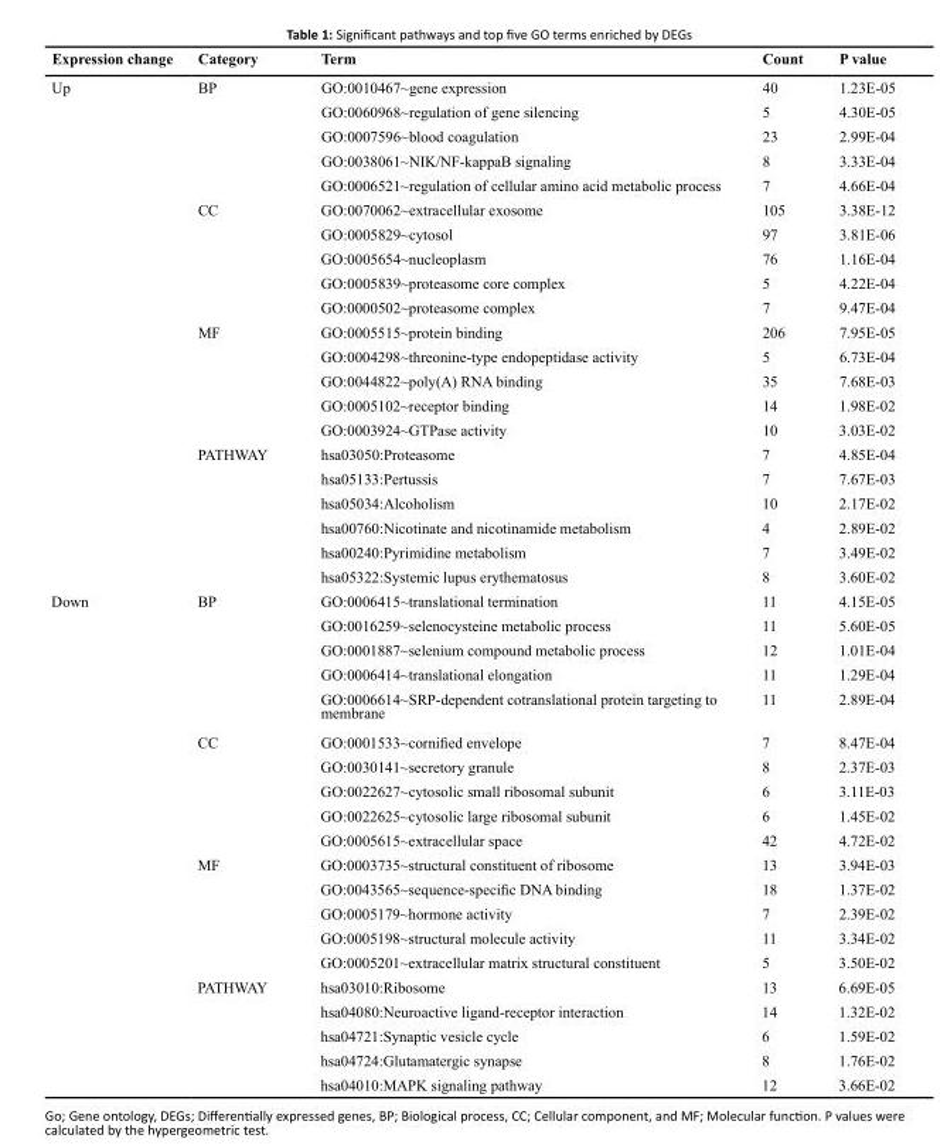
<table><thead><tr><td>Expression change</td><td>Category</td><td>Term</td><td>Count</td><td>P value</td></tr></thead><tbody><tr><td rowspan="21">Up</td><td>BP</td><td>GO:0010467~gene expression</td><td>40</td><td>1.23E-05</td></tr><tr><td></td><td>GO:0060968~regulation of gene silencing</td><td>5</td><td>4.30E-05</td></tr><tr><td></td><td>GO:0007596~blood coagulation</td><td>23</td><td>2.99E-04</td></tr><tr><td></td><td>GO:0038061~NIK/NF-kappaB signaling</td><td>8</td><td>3.33E-04</td></tr><tr><td></td><td>GO:0006521~regulation of cellular amino acid metabolic process</td><td>7</td><td>4.66E-04</td></tr><tr><td>CC</td><td>GO:0070062~extracellular exosome</td><td>105</td><td>3.38E-12</td></tr><tr><td></td><td>GO:0005829~cytosol</td><td>97</td><td>3.81E-06</td></tr><tr><td></td><td>GO:0005654~nucleoplasm</td><td>76</td><td>1.16E-04</td></tr><tr><td></td><td>GO:0005839~proteasome core complex</td><td>5</td><td>4.22E-04</td></tr><tr><td></td><td>GO:0000502~proteasome complex</td><td>7</td><td>9.47E-04</td></tr><tr><td>MF</td><td>GO:0005515~protein binding</td><td>206</td><td>7.95E-05</td></tr><tr><td></td><td>GO:0004298~threonine-type endopeptidase activity</td><td>5</td><td>6.73E-04</td></tr><tr><td></td><td>GO:0044822~poly(A) RNA binding</td><td>35</td><td>7.68E-03</td></tr><tr><td></td><td>GO:0005102~receptor binding</td><td>14</td><td>1.98E-02</td></tr><tr><td></td><td>GO:0003924~GTPase activity</td><td>10</td><td>3.03E-02</td></tr><tr><td>PATHWAY</td><td>hsa03050:Proteasome</td><td>7</td><td>4.85E-04</td></tr><tr><td></td><td>hsa05133:Pertussis</td><td>7</td><td>7.67E-03</td></tr><tr><td></td><td>hsa05034:Alcoholism</td><td>10</td><td>2.17E-02</td></tr><tr><td></td><td>hsa00760:Nicotinate and nicotinamide metabolism</td><td>4</td><td>2.89E-02</td></tr><tr><td></td><td>hsa00240:Pyrimidine metabolism</td><td>7</td><td>3.49E-02</td></tr><tr><td></td><td>hsa05322:Systemic lupus erythematosus</td><td>8</td><td>3.60E-02</td></tr><tr><td rowspan="20">Down</td><td>BP</td><td>GO:0006415~translational termination</td><td>11</td><td>4.15E-05</td></tr><tr><td></td><td>GO:0016259~selenocysteine metabolic process</td><td>11</td><td>5.60E-05</td></tr><tr><td></td><td>GO:0001887~selenium compound metabolic process</td><td>12</td><td>1.01E-04</td></tr><tr><td></td><td>GO:0006414~translational elongation</td><td>11</td><td>1.29E-04</td></tr><tr><td></td><td>GO:0006614~SRP-dependent cotranslational protein targeting to membrane</td><td>11</td><td>2.89E-04</td></tr><tr><td>CC</td><td>GO:0001533~cornified envelope</td><td>7</td><td>8.47E-04</td></tr><tr><td></td><td>GO:0030141~secretory granule</td><td>8</td><td>2.37E-03</td></tr><tr><td></td><td>GO:0022627~cytosolic small ribosomal subunit</td><td>6</td><td>3.11E-03</td></tr><tr><td></td><td>GO:0022625~cytosolic large ribosomal subunit</td><td>6</td><td>1.45E-02</td></tr><tr><td></td><td>GO:0005615~extracellular space</td><td>42</td><td>4.72E-02</td></tr><tr><td>MF</td><td>GO:0003735~structural constituent of ribosome</td><td>13</td><td>3.94E-03</td></tr><tr><td></td><td>GO:0043565~sequence-specific DNA binding</td><td>18</td><td>1.37E-02</td></tr><tr><td></td><td>GO:0005179~hormone activity</td><td>7</td><td>2.39E-02</td></tr><tr><td></td><td>GO:0005198~structural molecule activity</td><td>11</td><td>3.34E-02</td></tr><tr><td></td><td>GO:0005201~extracellular matrix structural constituent</td><td>5</td><td>3.50E-02</td></tr><tr><td>PATHWAY</td><td>hsa03010:Ribosome</td><td>13</td><td>6.69E-05</td></tr><tr><td></td><td>hsa04080:Neuroactive ligand-receptor interaction</td><td>14</td><td>1.32E-02</td></tr><tr><td></td><td>hsa04721:Synaptic vesicle cycle</td><td>6</td><td>1.59E-02</td></tr><tr><td></td><td>hsa04724:Glutamatergic synapse</td><td>8</td><td>1.76E-02</td></tr><tr><td></td><td>hsa04010:MAPK signaling pathway</td><td>12</td><td>3.66E-02</td></tr></tbody></table>